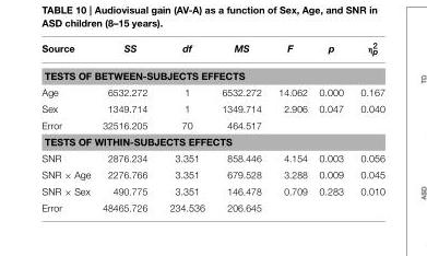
<table><thead><tr><td>Source</td><td>SS</td><td>df</td><td>MS</td><td>F</td><td>p</td><td>η<sup>2</sup><sub>p</sub></td></tr></thead><tbody><tr><td colspan="7">TESTS OF BETWEEN-SUBJECTS EFFECTS</td></tr><tr><td>Age</td><td>6532.272</td><td>1</td><td>6532.272</td><td>14.062</td><td>0.000</td><td>0.167</td></tr><tr><td>Sex</td><td>1349.714</td><td>1</td><td>1349.714</td><td>2.906</td><td>0.047</td><td>0.040</td></tr><tr><td>Error</td><td>32516.205</td><td>70</td><td>464.517</td><td></td><td></td><td></td></tr><tr><td colspan="7">TESTS OF WITHIN-SUBJECTS EFFECTS</td></tr><tr><td>SNR</td><td>2876.234</td><td>3.351</td><td>858.446</td><td>4.154</td><td>0.003</td><td>0.056</td></tr><tr><td>SNR × Age</td><td>2276.766</td><td>3.351</td><td>679.528</td><td>3.288</td><td>0.009</td><td>0.045</td></tr><tr><td>SNR × Sex</td><td>490.775</td><td>3.351</td><td>146.478</td><td>0.709</td><td>0.283</td><td>0.010</td></tr><tr><td>Error</td><td>48465.726</td><td>234.536</td><td>206.645</td><td></td><td></td><td></td></tr></tbody></table>